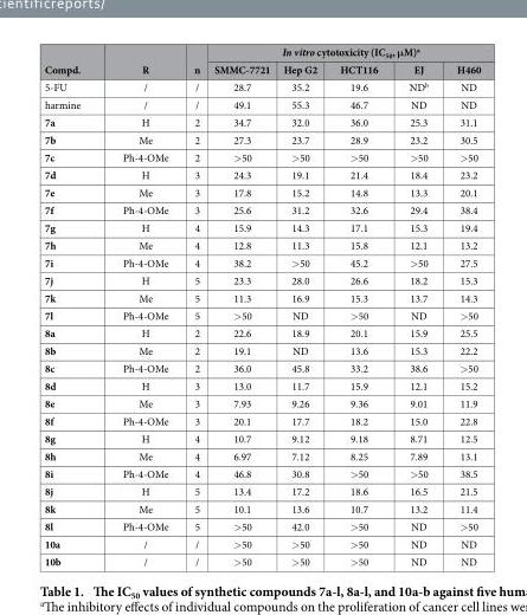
<table><thead><tr><td rowspan="2">Compd.</td><td rowspan="2">R</td><td rowspan="2">n</td><td colspan="5">In vitro cytotoxicity (IC<sub>50</sub>, μM)<sup>a</sup></td></tr><tr><td>SMMC-7721</td><td>Hep G2</td><td>HCT116</td><td>EJ</td><td>H460</td></tr></thead><tbody><tr><td>5-FU</td><td>/</td><td>/</td><td>28.7</td><td>35.2</td><td>19.6</td><td>ND<sup>b</sup></td><td>ND</td></tr><tr><td>harmine</td><td>/</td><td>/</td><td>49.1</td><td>55.3</td><td>46.7</td><td>ND</td><td>ND</td></tr><tr><td>7a</td><td>H</td><td>2</td><td>34.7</td><td>32.0</td><td>36.0</td><td>25.3</td><td>31.1</td></tr><tr><td>7b</td><td>Me</td><td>2</td><td>27.3</td><td>23.7</td><td>28.9</td><td>23.2</td><td>30.5</td></tr><tr><td>7c</td><td>Ph-4-OMe</td><td>2</td><td>&gt; 50</td><td>&gt; 50</td><td>&gt; 50</td><td>&gt; 50</td><td>&gt; 50</td></tr><tr><td>7d</td><td>H</td><td>3</td><td>24.3</td><td>19.1</td><td>21.4</td><td>18.4</td><td>23.2</td></tr><tr><td>7e</td><td>Me</td><td>3</td><td>17.8</td><td>15.2</td><td>14.8</td><td>13.3</td><td>20.1</td></tr><tr><td>7f</td><td>Ph-4-OMe</td><td>3</td><td>25.6</td><td>31.2</td><td>32.6</td><td>29.4</td><td>38.4</td></tr><tr><td>7g</td><td>H</td><td>4</td><td>15.9</td><td>14.3</td><td>17.1</td><td>15.3</td><td>19.4</td></tr><tr><td>7h</td><td>Me</td><td>4</td><td>12.8</td><td>11.3</td><td>15.8</td><td>12.1</td><td>13.2</td></tr><tr><td>7i</td><td>Ph-4-OMe</td><td>4</td><td>38.2</td><td>&gt; 50</td><td>45.2</td><td>&gt; 50</td><td>27.5</td></tr><tr><td>7j</td><td>H</td><td>5</td><td>23.3</td><td>28.0</td><td>26.6</td><td>18.2</td><td>15.3</td></tr><tr><td>7k</td><td>Me</td><td>5</td><td>11.3</td><td>16.9</td><td>15.3</td><td>13.7</td><td>14.3</td></tr><tr><td>7l</td><td>Ph-4-OMe</td><td>5</td><td>&gt; 50</td><td>ND</td><td>&gt; 50</td><td>ND</td><td>&gt; 50</td></tr><tr><td>8a</td><td>H</td><td>2</td><td>22.6</td><td>18.9</td><td>20.1</td><td>15.9</td><td>25.5</td></tr><tr><td>8b</td><td>Me</td><td>2</td><td>19.1</td><td>ND</td><td>13.6</td><td>15.3</td><td>22.2</td></tr><tr><td>8c</td><td>Ph-4-OMe</td><td>2</td><td>36.0</td><td>45.8</td><td>33.2</td><td>38.6</td><td>&gt; 50</td></tr><tr><td>8d</td><td>H</td><td>3</td><td>13.0</td><td>11.7</td><td>15.9</td><td>12.1</td><td>15.2</td></tr><tr><td>8e</td><td>Me</td><td>3</td><td>7.93</td><td>9.26</td><td>9.36</td><td>9.01</td><td>11.9</td></tr><tr><td>8f</td><td>Ph-4-OMe</td><td>3</td><td>20.1</td><td>17.7</td><td>18.2</td><td>15.0</td><td>22.8</td></tr><tr><td>8g</td><td>H</td><td>4</td><td>10.7</td><td>9.12</td><td>9.18</td><td>8.71</td><td>12.5</td></tr><tr><td>8h</td><td>Me</td><td>4</td><td>6.97</td><td>7.12</td><td>8.25</td><td>7.89</td><td>13.1</td></tr><tr><td>8i</td><td>Ph-4-OMe</td><td>4</td><td>46.8</td><td>30.8</td><td>&gt; 50</td><td>&gt; 50</td><td>38.5</td></tr><tr><td>8j</td><td>H</td><td>5</td><td>13.4</td><td>17.2</td><td>18.6</td><td>16.5</td><td>21.5</td></tr><tr><td>8k</td><td>Me</td><td>5</td><td>10.1</td><td>13.6</td><td>10.7</td><td>13.2</td><td>11.4</td></tr><tr><td>8l</td><td>Ph-4-OMe</td><td>5</td><td>&gt; 50</td><td>42.0</td><td>&gt; 50</td><td>ND</td><td>&gt; 50</td></tr><tr><td>10a</td><td>/</td><td>/</td><td>&gt; 50</td><td>&gt; 50</td><td>&gt; 50</td><td>ND</td><td>ND</td></tr><tr><td>10b</td><td>/</td><td>/</td><td>&gt; 50</td><td>&gt; 50</td><td>&gt; 50</td><td>ND</td><td>ND</td></tr></tbody></table>